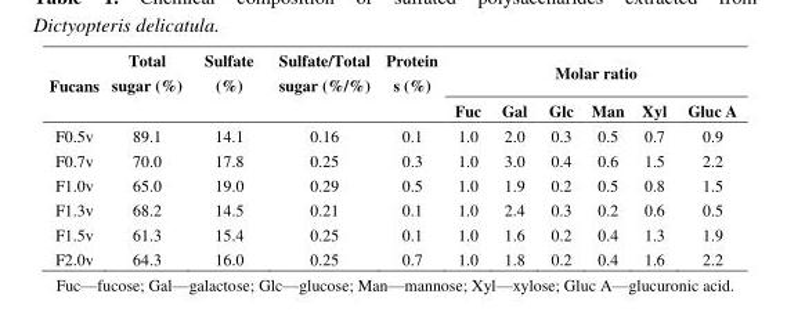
<table><thead><tr><td rowspan="2">Fucans</td><td rowspan="2">Total sugar (%)</td><td rowspan="2">Sulfate (%)</td><td rowspan="2">Sulfate/Total sugar (%/%)</td><td rowspan="2">Protein s (%)</td><td colspan="6">Molar ratio</td></tr><tr><td>Fuc</td><td>Gal</td><td>Glc</td><td>Man</td><td>Xyl</td><td>Gluc A</td></tr></thead><tbody><tr><td>F0.5v</td><td>89.1</td><td>14.1</td><td>0.16</td><td>0.1</td><td>1.0</td><td>2.0</td><td>0.3</td><td>0.5</td><td>0.7</td><td>0.9</td></tr><tr><td>F0.7v</td><td>70.0</td><td>17.8</td><td>0.25</td><td>0.3</td><td>1.0</td><td>3.0</td><td>0.4</td><td>0.6</td><td>1.5</td><td>2.2</td></tr><tr><td>F1.0v</td><td>65.0</td><td>19.0</td><td>0.29</td><td>0.5</td><td>1.0</td><td>1.9</td><td>0.2</td><td>0.5</td><td>0.8</td><td>1.5</td></tr><tr><td>F1.3v</td><td>68.2</td><td>14.5</td><td>0.21</td><td>0.1</td><td>1.0</td><td>2.4</td><td>0.3</td><td>0.2</td><td>0.6</td><td>0.5</td></tr><tr><td>F1.5v</td><td>61.3</td><td>15.4</td><td>0.25</td><td>0.1</td><td>1.0</td><td>1.6</td><td>0.2</td><td>0.4</td><td>1.3</td><td>1.9</td></tr><tr><td>F2.0v</td><td>64.3</td><td>16.0</td><td>0.25</td><td>0.7</td><td>1.0</td><td>1.8</td><td>0.2</td><td>0.4</td><td>1.6</td><td>2.2</td></tr></tbody></table>